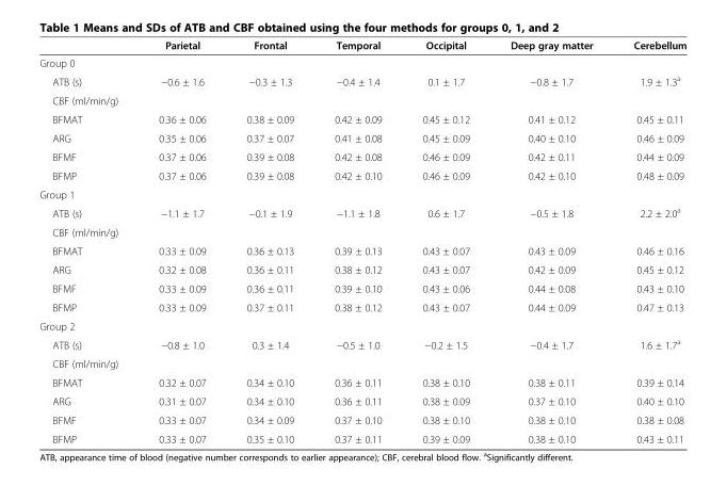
<table><thead><tr><td></td><td>Parietal</td><td>Frontal</td><td>Temporal</td><td>Occipital</td><td>Deep gray matter</td><td>Cerebellum</td></tr></thead><tbody><tr><td colspan="7">Group 0</td></tr><tr><td>ATB (s)</td><td>−0.6 ± 1.6</td><td>−0.3 ± 1.3</td><td>−0.4 ± 1.4</td><td>0.1 ± 1.7</td><td>−0.8 ± 1.7</td><td>1.9 ± 1.3<sup>a</sup></td></tr><tr><td colspan="7">CBF (ml/min/g)</td></tr><tr><td>BFMAT</td><td>0.36 ± 0.06</td><td>0.38 ± 0.09</td><td>0.42 ± 0.09</td><td>0.45 ± 0.12</td><td>0.41 ± 0.12</td><td>0.45 ± 0.11</td></tr><tr><td>ARG</td><td>0.35 ± 0.06</td><td>0.37 ± 0.07</td><td>0.41 ± 0.08</td><td>0.45 ± 0.09</td><td>0.40 ± 0.10</td><td>0.46 ± 0.09</td></tr><tr><td>BFMF</td><td>0.37 ± 0.06</td><td>0.39 ± 0.08</td><td>0.42 ± 0.08</td><td>0.46 ± 0.09</td><td>0.42 ± 0.11</td><td>0.44 ± 0.09</td></tr><tr><td>BFMP</td><td>0.37 ± 0.06</td><td>0.39 ± 0.08</td><td>0.42 ± 0.10</td><td>0.46 ± 0.09</td><td>0.42 ± 0.10</td><td>0.48 ± 0.09</td></tr><tr><td colspan="7">Group 1</td></tr><tr><td>ATB (s)</td><td>−1.1 ± 1.7</td><td>−0.1 ± 1.9</td><td>−1.1 ± 1.8</td><td>0.6 ± 1.7</td><td>−0.5 ± 1.8</td><td>2.2 ± 2.0<sup>a</sup></td></tr><tr><td colspan="7">CBF (ml/min/g)</td></tr><tr><td>BFMAT</td><td>0.33 ± 0.09</td><td>0.36 ± 0.13</td><td>0.39 ± 0.13</td><td>0.43 ± 0.07</td><td>0.43 ± 0.09</td><td>0.46 ± 0.16</td></tr><tr><td>ARG</td><td>0.32 ± 0.08</td><td>0.36 ± 0.11</td><td>0.38 ± 0.12</td><td>0.43 ± 0.07</td><td>0.42 ± 0.09</td><td>0.45 ± 0.12</td></tr><tr><td>BFMF</td><td>0.33 ± 0.09</td><td>0.36 ± 0.11</td><td>0.39 ± 0.10</td><td>0.43 ± 0.06</td><td>0.44 ± 0.08</td><td>0.43 ± 0.10</td></tr><tr><td>BFMP</td><td>0.33 ± 0.09</td><td>0.37 ± 0.11</td><td>0.38 ± 0.12</td><td>0.43 ± 0.07</td><td>0.44 ± 0.09</td><td>0.47 ± 0.13</td></tr><tr><td colspan="7">Group 2</td></tr><tr><td>ATB (s)</td><td>−0.8 ± 1.0</td><td>0.3 ± 1.4</td><td>−0.5 ± 1.0</td><td>−0.2 ± 1.5</td><td>−0.4 ± 1.7</td><td>1.6 ± 1.7<sup>a</sup></td></tr><tr><td colspan="7">CBF (ml/min/g)</td></tr><tr><td>BFMAT</td><td>0.32 ± 0.07</td><td>0.34 ± 0.10</td><td>0.36 ± 0.11</td><td>0.38 ± 0.10</td><td>0.38 ± 0.11</td><td>0.39 ± 0.14</td></tr><tr><td>ARG</td><td>0.31 ± 0.07</td><td>0.34 ± 0.10</td><td>0.36 ± 0.11</td><td>0.38 ± 0.09</td><td>0.37 ± 0.10</td><td>0.40 ± 0.10</td></tr><tr><td>BFMF</td><td>0.33 ± 0.07</td><td>0.34 ± 0.09</td><td>0.37 ± 0.10</td><td>0.38 ± 0.10</td><td>0.38 ± 0.10</td><td>0.38 ± 0.08</td></tr><tr><td>BFMP</td><td>0.33 ± 0.07</td><td>0.35 ± 0.10</td><td>0.37 ± 0.11</td><td>0.39 ± 0.09</td><td>0.38 ± 0.10</td><td>0.43 ± 0.11</td></tr></tbody></table>